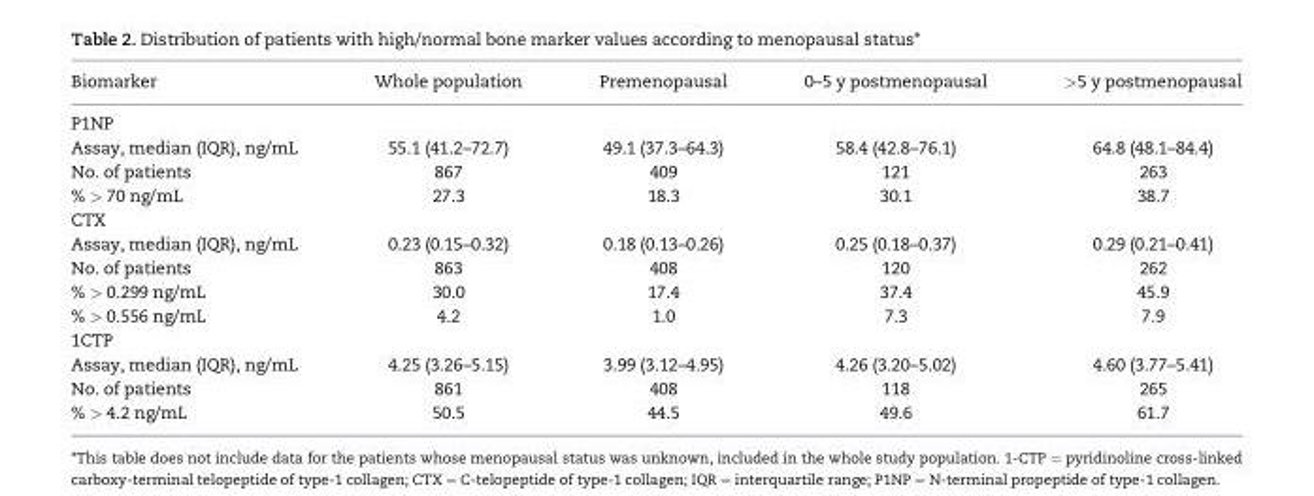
<table><thead><tr><td>Biomarker</td><td>Whole population</td><td>Premenopausal</td><td>0–5 y postmenopausal</td><td>&gt;5 y postmenopausal</td></tr></thead><tbody><tr><td colspan="5">P1NP</td></tr><tr><td>Assay, median (IQR), ng/mL</td><td>55.1 (41.2–72.7)</td><td>49.1 (37.3–64.3)</td><td>58.4 (42.8–76.1)</td><td>64.8 (48.1–84.4)</td></tr><tr><td>No. of patients</td><td>867</td><td>409</td><td>121</td><td>263</td></tr><tr><td>% &gt; 70 ng/mL</td><td>27.3</td><td>18.3</td><td>30.1</td><td>38.7</td></tr><tr><td colspan="5">CTX</td></tr><tr><td>Assay, median (IQR), ng/mL</td><td>0.23 (0.15–0.32)</td><td>0.18 (0.13–0.26)</td><td>0.25 (0.18–0.37)</td><td>0.29 (0.21–0.41)</td></tr><tr><td>No. of patients</td><td>863</td><td>408</td><td>120</td><td>262</td></tr><tr><td>% &gt; 0.299 ng/mL</td><td>30.0</td><td>17.4</td><td>37.4</td><td>45.9</td></tr><tr><td>% &gt; 0.556 ng/mL</td><td>4.2</td><td>1.0</td><td>7.3</td><td>7.9</td></tr><tr><td colspan="5">1CTP</td></tr><tr><td>Assay, median (IQR), ng/mL</td><td>4.25 (3.26–5.15)</td><td>3.99 (3.12–4.95)</td><td>4.26 (3.20–5.02)</td><td>4.60 (3.77–5.41)</td></tr><tr><td>No. of patients</td><td>861</td><td>408</td><td>118</td><td>265</td></tr><tr><td>% &gt; 4.2 ng/mL</td><td>50.5</td><td>44.5</td><td>49.6</td><td>61.7</td></tr></tbody></table>